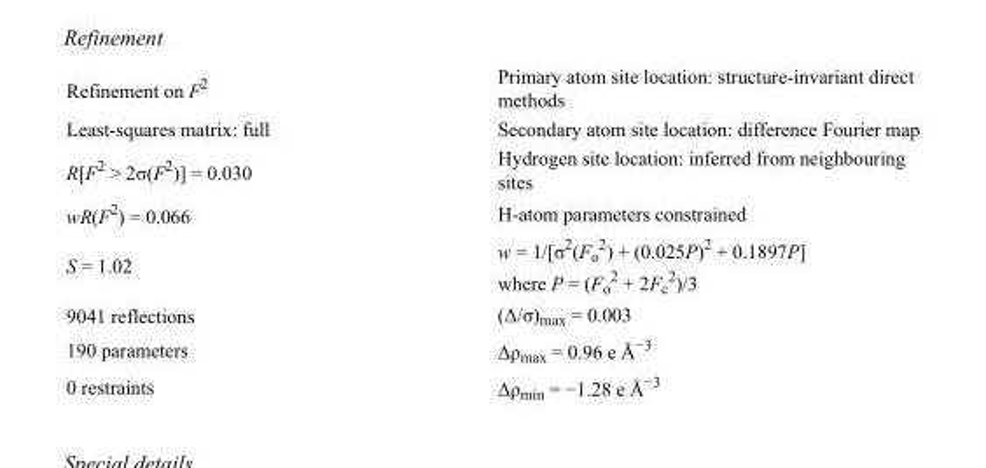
<table><tbody><tr><td>Refinement on F<sup>2</sup></td><td>Primary atom site location: structure-invariant direct methods</td></tr><tr><td>Least-squares matrix: full</td><td>Secondary atom site location: difference Fourier map</td></tr><tr><td>R[F<sup>2</sup> &gt; 2σ(F<sup>2</sup>)] = 0.030</td><td>Hydrogen site location: inferred from neighbouring sites</td></tr><tr><td>wR(F<sup>2</sup>) = 0.066</td><td>H-atom parameters constrained</td></tr><tr><td>S = 1.02</td><td>w = 1/[σ<sup>2</sup>(F<sub>o</sub> <sup>2</sup>) + (0.025P)<sup>2</sup> + 0.1897P] where P = (F<sub>o</sub> <sup>2</sup> + 2F<sub>c</sub> <sup>2</sup>)/3</td></tr><tr><td>9041 reflections</td><td>(Δ/σ)<sub>max</sub> = 0.003</td></tr><tr><td>190 parameters</td><td>Δρ<sub>max</sub> = 0.96 e Å<sup>−3</sup></td></tr><tr><td>0 restraints</td><td>Δρ<sub>min</sub> = −1.28 e Å<sup>−3</sup></td></tr></tbody></table>